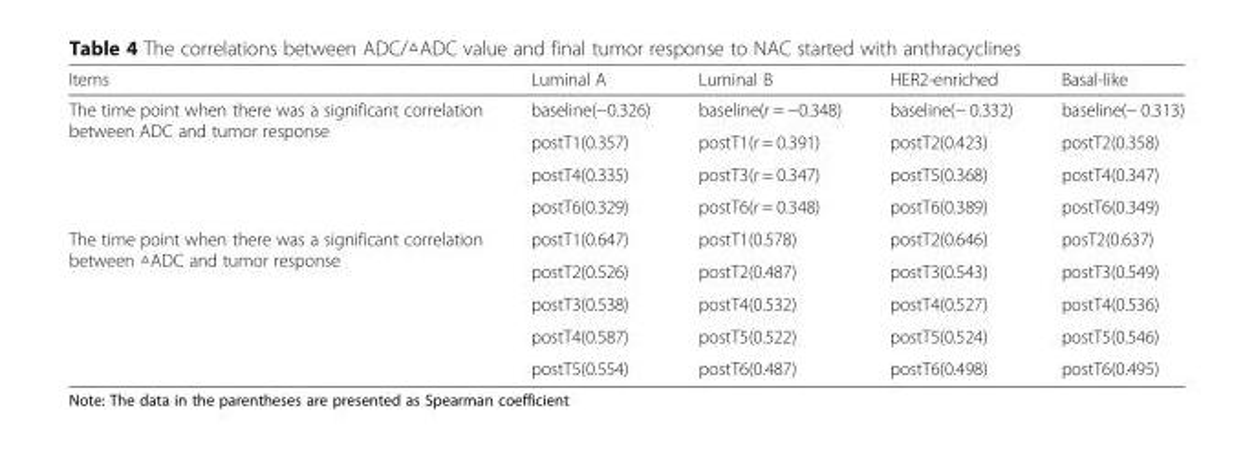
<table><thead><tr><td>Items</td><td>Luminal A</td><td>Luminal B</td><td>HER2-enriched</td><td>Basal-like</td></tr></thead><tbody><tr><td rowspan="4">The time point when there was a significant correlation between ADC and tumor response</td><td>baseline(−0.326)</td><td>baseline(r = −0.348)</td><td>baseline(− 0.332)</td><td>baseline(− 0.313)</td></tr><tr><td>postT1(0.357)</td><td>postT1(r = 0.391)</td><td>postT2(0.423)</td><td>postT2(0.358)</td></tr><tr><td>postT4(0.335)</td><td>postT3(r = 0.347)</td><td>postT5(0.368)</td><td>postT4(0.347)</td></tr><tr><td>postT6(0.329)</td><td>postT6(r = 0.348)</td><td>postT6(0.389)</td><td>postT6(0.349)</td></tr><tr><td rowspan="5">The time point when there was a significant correlation between △ADC and tumor response</td><td>postT1(0.647)</td><td>postT1(0.578)</td><td>postT2(0.646)</td><td>posT2(0.637)</td></tr><tr><td>postT2(0.526)</td><td>postT2(0.487)</td><td>postT3(0.543)</td><td>postT3(0.549)</td></tr><tr><td>postT3(0.538)</td><td>postT4(0.532)</td><td>postT4(0.527)</td><td>postT4(0.536)</td></tr><tr><td>postT4(0.587)</td><td>postT5(0.522)</td><td>postT5(0.524)</td><td>postT5(0.546)</td></tr><tr><td>postT5(0.554)</td><td>postT6(0.487)</td><td>postT6(0.498)</td><td>postT6(0.495)</td></tr></tbody></table>